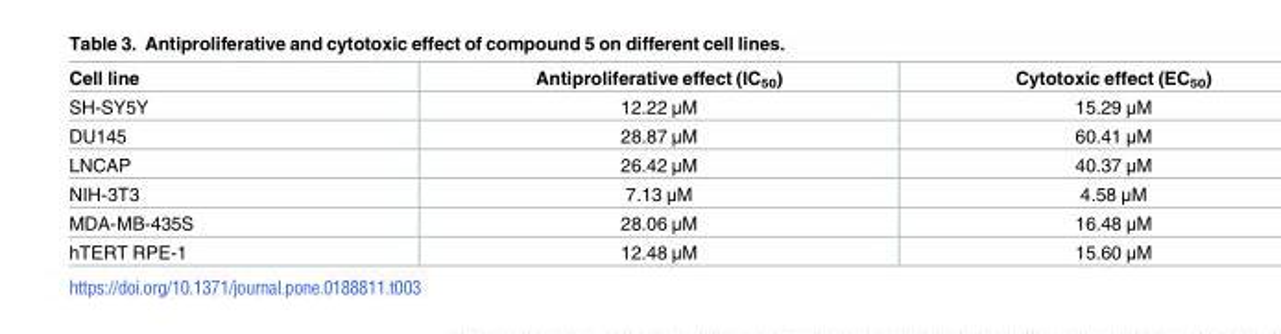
<table><thead><tr><td>Cell line</td><td>Antiproliferative effect (IC<sub>50</sub>)</td><td>Cytotoxic effect (EC<sub>50</sub>)</td></tr></thead><tbody><tr><td>SH-SY5Y</td><td>12.22 μM</td><td>15.29 μM</td></tr><tr><td>DU145</td><td>28.87 μM</td><td>60.41 μM</td></tr><tr><td>LNCAP</td><td>26.42 μM</td><td>40.37 μM</td></tr><tr><td>NIH-3T3</td><td>7.13 μM</td><td>4.58 μM</td></tr><tr><td>MDA-MB-435S</td><td>28.06 μM</td><td>16.48 μM</td></tr><tr><td>hTERT RPE-1</td><td>12.48 μM</td><td>15.60 μM</td></tr></tbody></table>